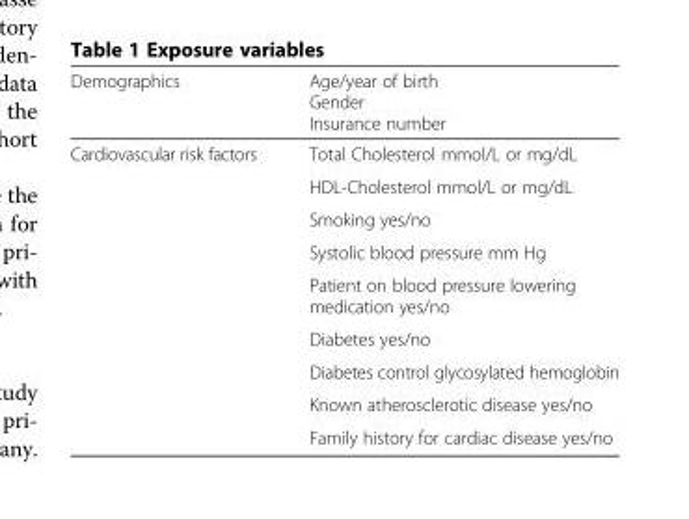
<table><thead><tr><td rowspan="3">Demographics</td><td rowspan="3">Age/year of birth Gender Insurance number</td></tr><tr></tr><tr></tr></thead><tbody><tr><td rowspan="9">Cardiovascular risk factors</td><td>Total Cholesterol mmol/L or mg/dL</td></tr><tr><td>HDL-Cholesterol mmol/L or mg/dL</td></tr><tr><td>Smoking yes/no</td></tr><tr><td>Systolic blood pressure mm Hg</td></tr><tr><td>Patient on blood pressure lowering medication yes/no</td></tr><tr><td>Diabetes yes/no</td></tr><tr><td>Diabetes control glycosylated hemoglobin</td></tr><tr><td>Known atherosclerotic disease yes/no</td></tr><tr><td>Family history for cardiac disease yes/no</td></tr></tbody></table>